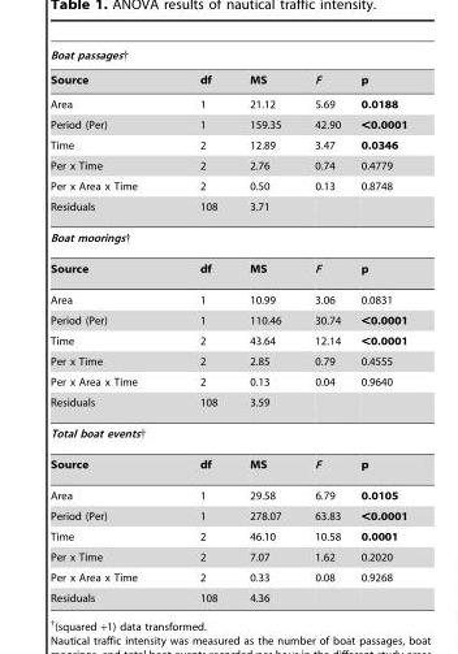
<table><thead><tr><td colspan="5">Boat passages†</td></tr><tr><td>Source</td><td>df</td><td>MS</td><td>F</td><td>p</td></tr></thead><tbody><tr><td>Area</td><td>1</td><td>21.12</td><td>5.69</td><td>0.0188</td></tr><tr><td>Period (Per)</td><td>1</td><td>159.35</td><td>42.90</td><td>&lt;0.0001</td></tr><tr><td>Time</td><td>2</td><td>12.89</td><td>3.47</td><td>0.0346</td></tr><tr><td>Per x Time</td><td>2</td><td>2.76</td><td>0.74</td><td>0.4779</td></tr><tr><td>Per x Area x Time</td><td>2</td><td>0.50</td><td>0.13</td><td>0.8748</td></tr><tr><td>Residuals</td><td>108</td><td>3.71</td><td></td><td></td></tr><tr><td colspan="5">Boat moorings†</td></tr><tr><td>Source</td><td>df</td><td>MS</td><td>F</td><td>p</td></tr><tr><td>Area</td><td>1</td><td>10.99</td><td>3.06</td><td>0.0831</td></tr><tr><td>Period (Per)</td><td>1</td><td>110.46</td><td>30.74</td><td>&lt;0.0001</td></tr><tr><td>Time</td><td>2</td><td>43.64</td><td>12.14</td><td>&lt;0.0001</td></tr><tr><td>Per x Time</td><td>2</td><td>2.85</td><td>0.79</td><td>0.4555</td></tr><tr><td>Per x Area x Time</td><td>2</td><td>0.13</td><td>0.04</td><td>0.9640</td></tr><tr><td>Residuals</td><td>108</td><td>3.59</td><td></td><td></td></tr><tr><td colspan="5">Total boat events†</td></tr><tr><td>Source</td><td>df</td><td>MS</td><td>F</td><td>p</td></tr><tr><td>Area</td><td>1</td><td>29.58</td><td>6.79</td><td>0.0105</td></tr><tr><td>Period (Per)</td><td>1</td><td>278.07</td><td>63.83</td><td>&lt;0.0001</td></tr><tr><td>Time</td><td>2</td><td>46.10</td><td>10.58</td><td>0.0001</td></tr><tr><td>Per x Time</td><td>2</td><td>7.07</td><td>1.62</td><td>0.2020</td></tr><tr><td>Per x Area x Time</td><td>2</td><td>0.33</td><td>0.08</td><td>0.9268</td></tr><tr><td>Residuals</td><td>108</td><td>4.36</td><td></td><td></td></tr></tbody></table>